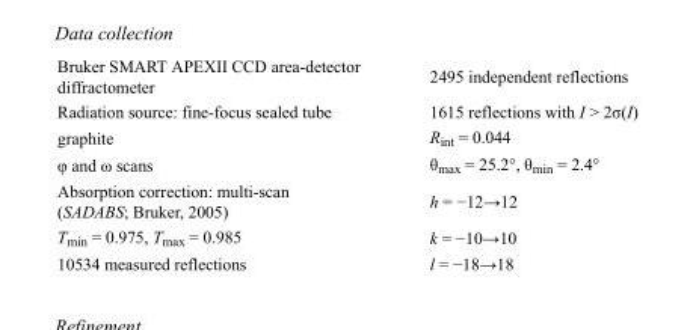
<table><tbody><tr><td>Bruker SMART APEXII CCD area-detector diffractometer</td><td>2495 independent reflections</td></tr><tr><td>Radiation source: fine-focus sealed tube</td><td>1615 reflections with I &gt; 2σ(I)</td></tr><tr><td>graphite</td><td>R<sub>int</sub> = 0.044</td></tr><tr><td>φ and ω scans</td><td>θ<sub>max</sub> = 25.2°, θ<sub>min</sub> = 2.4°</td></tr><tr><td>Absorption correction: multi-scan (SADABS; Bruker, 2005)</td><td>h = −12→12</td></tr><tr><td>T<sub>min</sub> = 0.975, T<sub>max</sub> = 0.985</td><td>k = −10→10</td></tr><tr><td>10534 measured reflections</td><td>l = −18→18</td></tr></tbody></table>